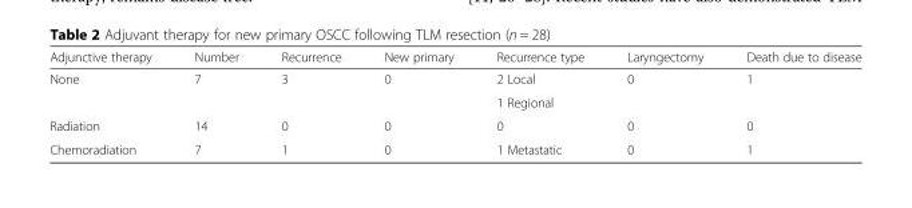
<table><thead><tr><td>Adjunctive therapy</td><td>Number</td><td>Recurrence</td><td>New primary</td><td>Recurrence type</td><td>Laryngectomy</td><td>Death due to disease</td></tr></thead><tbody><tr><td rowspan="2">None</td><td rowspan="2">7</td><td rowspan="2">3</td><td rowspan="2">0</td><td>2 Local</td><td rowspan="2">0</td><td rowspan="2">1</td></tr><tr><td>1 Regional</td></tr><tr><td>Radiation</td><td>14</td><td>0</td><td>0</td><td>0</td><td>0</td><td>0</td></tr><tr><td>Chemoradiation</td><td>7</td><td>1</td><td>0</td><td>1 Metastatic</td><td>0</td><td>1</td></tr></tbody></table>